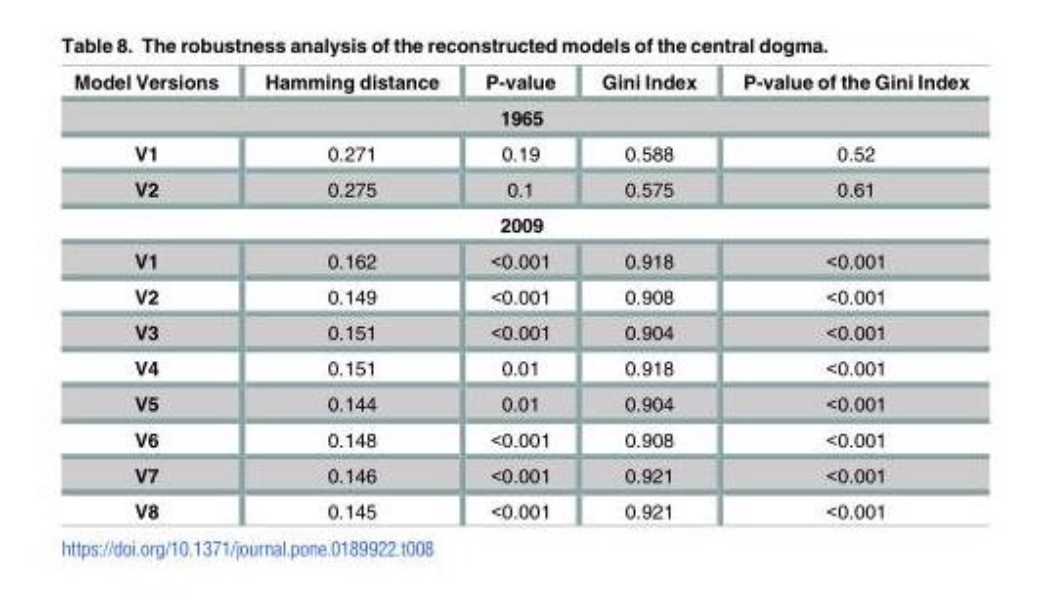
<table><thead><tr><td>Model Versions</td><td>Hamming distance</td><td>P-value</td><td>Gini Index</td><td>P-value of the Gini Index</td></tr></thead><tbody><tr><td colspan="5">1965</td></tr><tr><td>V1</td><td>0.271</td><td>0.19</td><td>0.588</td><td>0.52</td></tr><tr><td>V2</td><td>0.275</td><td>0.1</td><td>0.575</td><td>0.61</td></tr><tr><td colspan="5">2009</td></tr><tr><td>V1</td><td>0.162</td><td>&lt;0.001</td><td>0.918</td><td>&lt;0.001</td></tr><tr><td>V2</td><td>0.149</td><td>&lt;0.001</td><td>0.908</td><td>&lt;0.001</td></tr><tr><td>V3</td><td>0.151</td><td>&lt;0.001</td><td>0.904</td><td>&lt;0.001</td></tr><tr><td>V4</td><td>0.151</td><td>0.01</td><td>0.918</td><td>&lt;0.001</td></tr><tr><td>V5</td><td>0.144</td><td>0.01</td><td>0.904</td><td>&lt;0.001</td></tr><tr><td>V6</td><td>0.148</td><td>&lt;0.001</td><td>0.908</td><td>&lt;0.001</td></tr><tr><td>V7</td><td>0.146</td><td>&lt;0.001</td><td>0.921</td><td>&lt;0.001</td></tr><tr><td>V8</td><td>0.145</td><td>&lt;0.001</td><td>0.921</td><td>&lt;0.001</td></tr></tbody></table>